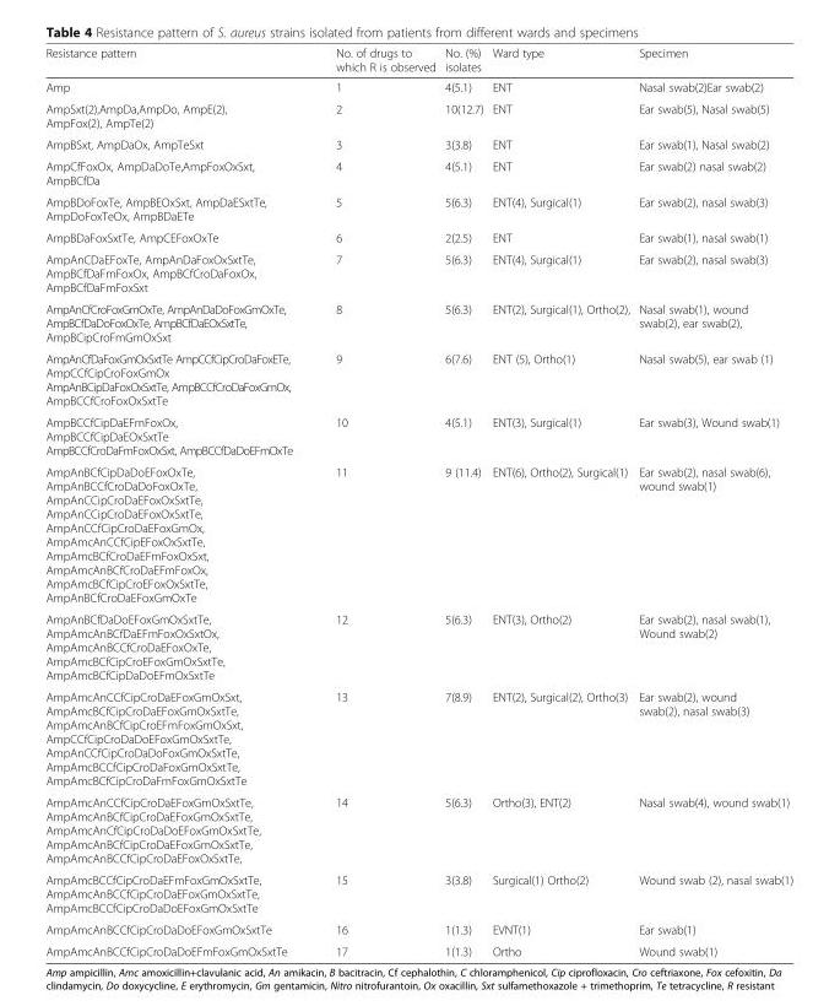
<table><thead><tr><td>Resistance pattern</td><td>No. of drugs to which R is observed</td><td>No. (%) isolates</td><td>Ward type</td><td>Specimen</td></tr></thead><tbody><tr><td>Amp</td><td>1</td><td>4(5.1)</td><td>ENT</td><td>Nasal swab(2)Ear swab(2)</td></tr><tr><td>AmpSxt(2),AmpDa,AmpDo, AmpE(2), AmpFox(2), AmpTe(2)</td><td>2</td><td>10(12.7)</td><td>ENT</td><td>Ear swab(5), Nasal swab(5)</td></tr><tr><td>AmpBSxt, AmpDaOx, AmpTeSxt</td><td>3</td><td>3(3.8)</td><td>ENT</td><td>Ear swab(1), Nasal swab(2)</td></tr><tr><td>AmpCfFoxOx, AmpDaDoTe,AmpFoxOxSxt, AmpBCfDa</td><td>4</td><td>4(5.1)</td><td>ENT</td><td>Ear swab(2) nasal swab(2)</td></tr><tr><td>AmpBDoFoxTe, AmpBEOxSxt, AmpDaESxtTe, AmpDoFoxTeOx, AmpBDaETe</td><td>5</td><td>5(6.3)</td><td>ENT(4), Surgical(1)</td><td>Ear swab(2), nasal swab(3)</td></tr><tr><td>AmpBDaFoxSxtTe, AmpCEFoxOxTe</td><td>6</td><td>2(2.5)</td><td>ENT</td><td>Ear swab(1), nasal swab(1)</td></tr><tr><td>AmpAnCDaEFoxTe, AmpAnDaFoxOxSxtTe, AmpBCfDaFmFoxOx, AmpBCfCroDaFoxOx, AmpBCfDaFmFoxSxt</td><td>7</td><td>5(6.3)</td><td>ENT(4), Surgical(1)</td><td>Ear swab(2), nasal swab(3)</td></tr><tr><td>AmpAnCfCroFoxGmOxTe, AmpAnDaDoFoxGmOxTe, AmpBCfDaDoFoxOxTe, AmpBCfDaEOxSxtTe, AmpBCipCroFmGmOxSxt</td><td>8</td><td>5(6.3)</td><td>ENT(2), Surgical(1), Ortho(2),</td><td>Nasal swab(1), wound swab(2), ear swab(2),</td></tr><tr><td>AmpAnCfDaFoxGmOxSxtTe AmpCCfCipCroDaFoxETe, AmpCCfCipCroFoxGmOx AmpAnBCipDaFoxOxSxtTe, AmpBCCfCroDaFoxGmOx, AmpBCCfCroFoxOxSxtTe</td><td>9</td><td>6(7.6)</td><td>ENT (5), Ortho(1)</td><td>Nasal swab(5), ear swab (1)</td></tr><tr><td>AmpBCCfCipDaEFmFoxOx, AmpBCCfCipDaEOxSxtTe AmpBCCfCroDaFmFoxOxSxt, AmpBCCfDaDoEFmOxTe</td><td>10</td><td>4(5.1)</td><td>ENT(3), Surgical(1)</td><td>Ear swab(3), Wound swab(1)</td></tr><tr><td>AmpAnBCfCipDaDoEFoxOxTe, AmpAnBCCfCroDaDoFoxOxTe, AmpAnCCipCroDaEFoxOxSxtTe, AmpAnCCipCroDaEFoxOxSxtTe, AmpAnCCfCipCroDaEFoxGmOx, AmpAmcAnCCfCipEFoxOxSxtTe, AmpAmcBCfCroDaEFmFoxOxSxt, AmpAmcAnBCfCroDaEFmFoxOx, AmpAmcBCfCipCroEFoxOxSxtTe, AmpAnBCfCroDaEFoxGmOxTe</td><td>11</td><td>9 (11.4)</td><td>ENT(6), Ortho(2), Surgical(1)</td><td>Ear swab(2), nasal swab(6), wound swab(1)</td></tr><tr><td>AmpAnBCfDaDoEFoxGmOxSxtTe, AmpAmcAnBCfDaEFmFoxOxSxtOx, AmpAmcAnBCCfCroDaEFoxOxTe, AmpAmcBCfCipCroEFoxGmOxSxtTe, AmpAmcBCfCipDaDoEFmOxSxtTe</td><td>12</td><td>5(6.3)</td><td>ENT(3), Ortho(2)</td><td>Ear swab(2), nasal swab(1), Wound swab(2)</td></tr><tr><td>AmpAmcAnCCfCipCroDaEFoxGmOxSxt, AmpAmcBCfCipCroDaEFoxGmOxSxtTe, AmpAmcAnBCfCipCroEFmFoxGmOxSxt, AmpCCfCipCroDaDoEFoxGmOxSxtTe, AmpAnCCfCipCroDaDoFoxGmOxSxtTe, AmpAmcBCCfCipCroDaFoxGmOxSxtTe, AmpAmcBCfCipCroDaFmFoxGmOxSxtTe</td><td>13</td><td>7(8.9)</td><td>ENT(2), Surgical(2), Ortho(3)</td><td>Ear swab(2), wound swab(2), nasal swab(3)</td></tr><tr><td>AmpAmcAnCCfCipCroDaEFoxGmOxSxtTe, AmpAmcAnBCfCipCroDaEFoxGmOxSxtTe, AmpAmcAnCfCipCroDaDoEFoxGmOxSxtTe, AmpAmcAnBCfCipCroDaEFoxGmOxSxtTe, AmpAmcAnBCCfCipCroDaEFoxOxSxtTe,</td><td>14</td><td>5(6.3)</td><td>Ortho(3), ENT(2)</td><td>Nasal swab(4), wound swab(1)</td></tr><tr><td>AmpAmcBCCfCipCroDaEFmFoxGmOxSxtTe, AmpAmcAnBCCfCipCroDaEFoxGmOxSxtTe, AmpAmcBCCfCipCroDaDoEFoxGmOxSxtTe</td><td>15</td><td>3(3.8)</td><td>Surgical(1) Ortho(2)</td><td>Wound swab (2), nasal swab(1)</td></tr><tr><td>AmpAmcAnBCCfCipCroDaDoEFoxGmOxSxtTe</td><td>16</td><td>1(1.3)</td><td>EVNT(1)</td><td>Ear swab(1)</td></tr><tr><td>AmpAmcAnBCCfCipCroDaDoEFmFoxGmOxSxtTe</td><td>17</td><td>1(1.3)</td><td>Ortho</td><td>Wound swab(1)</td></tr></tbody></table>